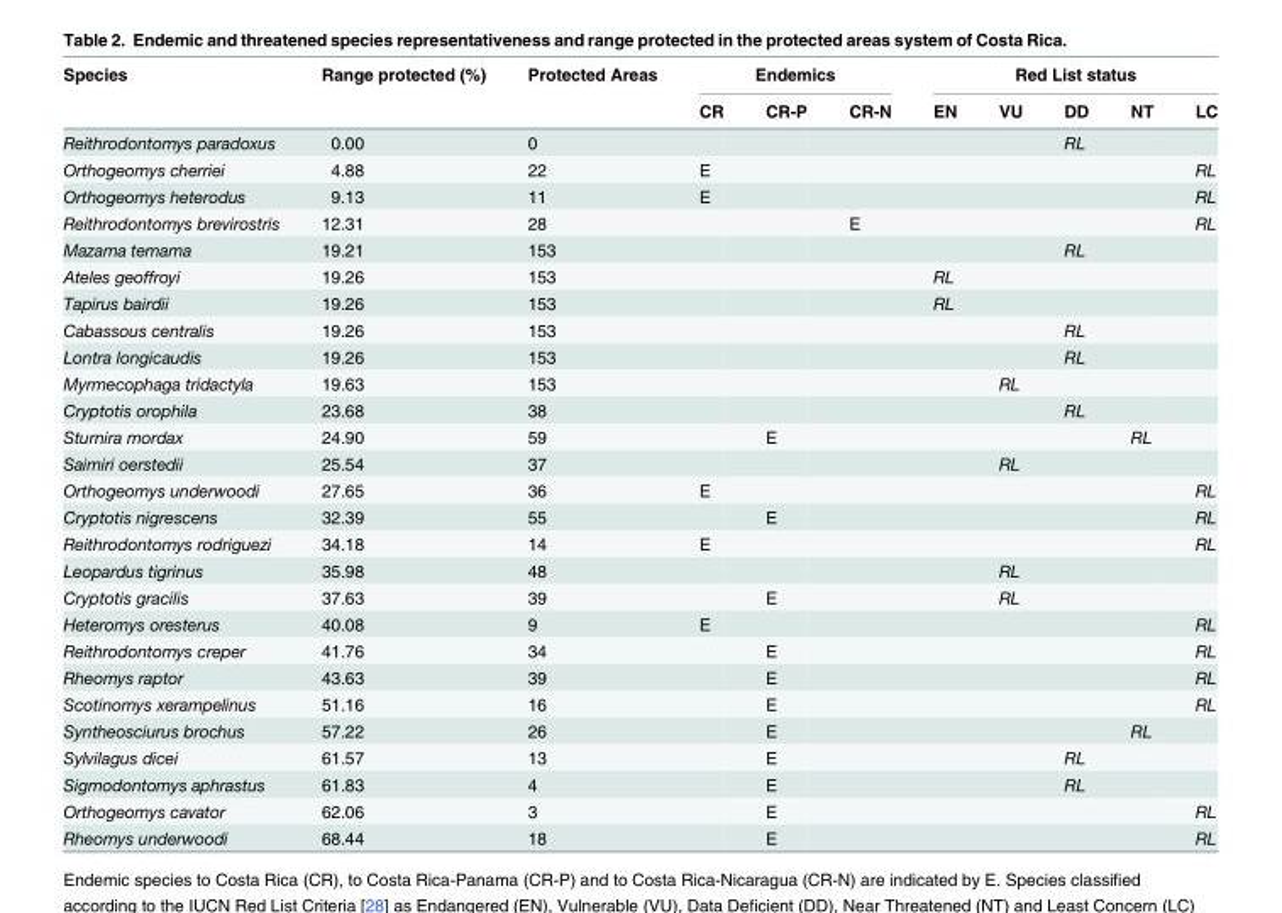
<table><thead><tr><td rowspan="2">Species</td><td rowspan="2">Range protected (%)</td><td rowspan="2">Protected Areas</td><td colspan="3">Endemics</td><td colspan="5">Red List status</td></tr><tr><td>CR</td><td>CR-P</td><td>CR-N</td><td>EN</td><td>VU</td><td>DD</td><td>NT</td><td>LC</td></tr></thead><tbody><tr><td>Reithrodontomys paradoxus</td><td>0.00</td><td>0</td><td></td><td></td><td></td><td></td><td></td><td>RL</td><td></td><td></td></tr><tr><td>Orthogeomys cherriei</td><td>4.88</td><td>22</td><td>E</td><td></td><td></td><td></td><td></td><td></td><td></td><td>RL</td></tr><tr><td>Orthogeomys heterodus</td><td>9.13</td><td>11</td><td>E</td><td></td><td></td><td></td><td></td><td></td><td></td><td>RL</td></tr><tr><td>Reithrodontomys brevirostris</td><td>12.31</td><td>28</td><td></td><td></td><td>E</td><td></td><td></td><td></td><td></td><td>RL</td></tr><tr><td>Mazama temama</td><td>19.21</td><td>153</td><td></td><td></td><td></td><td></td><td></td><td>RL</td><td></td><td></td></tr><tr><td>Ateles geoffroyi</td><td>19.26</td><td>153</td><td></td><td></td><td></td><td>RL</td><td></td><td></td><td></td><td></td></tr><tr><td>Tapirus bairdii</td><td>19.26</td><td>153</td><td></td><td></td><td></td><td>RL</td><td></td><td></td><td></td><td></td></tr><tr><td>Cabassous centralis</td><td>19.26</td><td>153</td><td></td><td></td><td></td><td></td><td></td><td>RL</td><td></td><td></td></tr><tr><td>Lontra longicaudis</td><td>19.26</td><td>153</td><td></td><td></td><td></td><td></td><td></td><td>RL</td><td></td><td></td></tr><tr><td>Myrmecophaga tridactyla</td><td>19.63</td><td>153</td><td></td><td></td><td></td><td></td><td>RL</td><td></td><td></td><td></td></tr><tr><td>Cryptotis orophila</td><td>23.68</td><td>38</td><td></td><td></td><td></td><td></td><td></td><td>RL</td><td></td><td></td></tr><tr><td>Sturnira mordax</td><td>24.90</td><td>59</td><td></td><td>E</td><td></td><td></td><td></td><td></td><td>RL</td><td></td></tr><tr><td>Saimiri oerstedii</td><td>25.54</td><td>37</td><td></td><td></td><td></td><td></td><td>RL</td><td></td><td></td><td></td></tr><tr><td>Orthogeomys underwoodi</td><td>27.65</td><td>36</td><td>E</td><td></td><td></td><td></td><td></td><td></td><td></td><td>RL</td></tr><tr><td>Cryptotis nigrescens</td><td>32.39</td><td>55</td><td></td><td>E</td><td></td><td></td><td></td><td></td><td></td><td>RL</td></tr><tr><td>Reithrodontomys rodriguezi</td><td>34.18</td><td>14</td><td>E</td><td></td><td></td><td></td><td></td><td></td><td></td><td>RL</td></tr><tr><td>Leopardus tigrinus</td><td>35.98</td><td>48</td><td></td><td></td><td></td><td></td><td>RL</td><td></td><td></td><td></td></tr><tr><td>Cryptotis gracilis</td><td>37.63</td><td>39</td><td></td><td>E</td><td></td><td></td><td>RL</td><td></td><td></td><td></td></tr><tr><td>Heteromys oresterus</td><td>40.08</td><td>9</td><td>E</td><td></td><td></td><td></td><td></td><td></td><td></td><td>RL</td></tr><tr><td>Reithrodontomys creper</td><td>41.76</td><td>34</td><td></td><td>E</td><td></td><td></td><td></td><td></td><td></td><td>RL</td></tr><tr><td>Rheomys raptor</td><td>43.63</td><td>39</td><td></td><td>E</td><td></td><td></td><td></td><td></td><td></td><td>RL</td></tr><tr><td>Scotinomys xerampelinus</td><td>51.16</td><td>16</td><td></td><td>E</td><td></td><td></td><td></td><td></td><td></td><td>RL</td></tr><tr><td>Syntheosciurus brochus</td><td>57.22</td><td>26</td><td></td><td>E</td><td></td><td></td><td></td><td></td><td>RL</td><td></td></tr><tr><td>Sylvilagus dicei</td><td>61.57</td><td>13</td><td></td><td>E</td><td></td><td></td><td></td><td>RL</td><td></td><td></td></tr><tr><td>Sigmodontomys aphrastus</td><td>61.83</td><td>4</td><td></td><td>E</td><td></td><td></td><td></td><td>RL</td><td></td><td></td></tr><tr><td>Orthogeomys cavator</td><td>62.06</td><td>3</td><td></td><td>E</td><td></td><td></td><td></td><td></td><td></td><td>RL</td></tr><tr><td>Rheomys underwoodi</td><td>68.44</td><td>18</td><td></td><td>E</td><td></td><td></td><td></td><td></td><td></td><td>RL</td></tr></tbody></table>